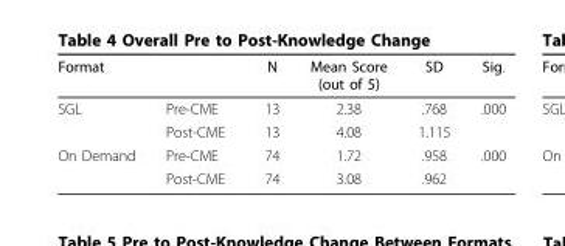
<table><thead><tr><td>Format</td><td></td><td>N</td><td>Mean Score (out of 5)</td><td>SD</td><td>Sig.</td></tr></thead><tbody><tr><td rowspan="2">SGL</td><td>Pre-CME</td><td>13</td><td>2.38</td><td>.768</td><td>.000</td></tr><tr><td>Post-CME</td><td>13</td><td>4.08</td><td>1.115</td><td></td></tr><tr><td rowspan="2">On Demand</td><td>Pre-CME</td><td>74</td><td>1.72</td><td>.958</td><td>.000</td></tr><tr><td>Post-CME</td><td>74</td><td>3.08</td><td>.962</td><td></td></tr></tbody></table>